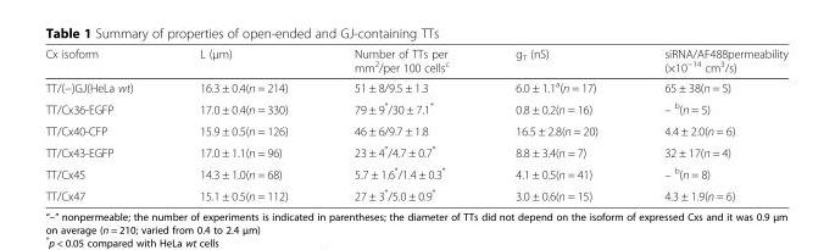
<table><thead><tr><td>Cx isoform</td><td>L (μm)</td><td>Number of TTs per mm<sup>2</sup>/per 100 cells<sup>c</sup></td><td>g<sub>T</sub> (nS)</td><td>siRNA/AF488permeability (×10<sup>−14</sup> cm<sup>3</sup>/s)</td></tr></thead><tbody><tr><td>TT/(−)GJ(HeLa wt)</td><td>16.3 ± 0.4(n = 214)</td><td>51 ± 8/9.5 ± 1.3</td><td>6.0 ± 1.1<sup>a</sup>(n = 17)</td><td>65 ± 38(n = 5)</td></tr><tr><td>TT/Cx36-EGFP</td><td>17.0 ± 0.4(n = 330)</td><td>79 ± 9*/30 ± 7.1*</td><td>0.8 ± 0.2(n = 16)</td><td>– <sup>b</sup>(n = 5)</td></tr><tr><td>TT/Cx40-CFP</td><td>15.9 ± 0.5(n = 126)</td><td>46 ± 6/9.7 ± 1.8</td><td>16.5 ± 2.8(n = 20)</td><td>4.4 ± 2.0(n = 6)</td></tr><tr><td>TT/Cx43-EGFP</td><td>17.0 ± 1.1(n = 96)</td><td>23 ± 4*/4.7 ± 0.7*</td><td>8.8 ± 3.4(n = 7)</td><td>32 ± 17(n = 4)</td></tr><tr><td>TT/Cx45</td><td>14.3 ± 1.0(n = 68)</td><td>5.7 ± 1.6*/1.4 ± 0.3*</td><td>4.1 ± 0.5(n = 41)</td><td>– <sup>b</sup>(n = 8)</td></tr><tr><td>TT/Cx47</td><td>15.1 ± 0.5(n = 112)</td><td>27 ± 3*/5.0 ± 0.9*</td><td>3.0 ± 0.6(n = 15)</td><td>4.3 ± 1.9(n = 6)</td></tr></tbody></table>